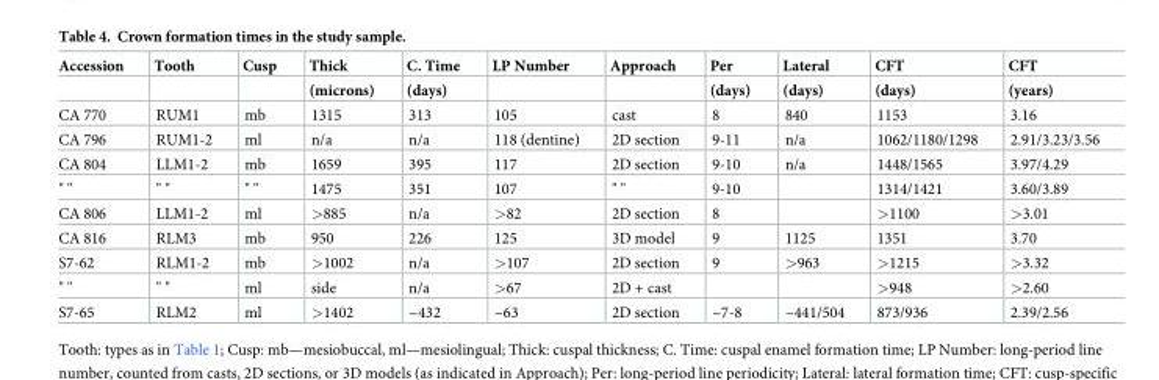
<table><thead><tr><td rowspan="2">Accession</td><td rowspan="2">Tooth</td><td rowspan="2">Cusp</td><td rowspan="2">Thick (microns)</td><td rowspan="2">C. Time (days)</td><td rowspan="2">LP Number</td><td rowspan="2">Approach</td><td rowspan="2">Per (days)</td><td rowspan="2">Lateral (days)</td><td rowspan="2">CFT (days)</td><td rowspan="2">CFT (years)</td></tr><tr></tr></thead><tbody><tr><td>CA 770</td><td>RUM1</td><td>mb</td><td>1315</td><td>313</td><td>105</td><td>cast</td><td>8</td><td>840</td><td>1153</td><td>3.16</td></tr><tr><td>CA 796</td><td>RUM1-2</td><td>ml</td><td>n/a</td><td>n/a</td><td>118 (dentine)</td><td>2D section</td><td>9-11</td><td>n/a</td><td>1062/1180/1298</td><td>2.91/3.23/3.56</td></tr><tr><td>CA 804</td><td>LLM1-2</td><td>mb</td><td>1659</td><td>395</td><td>117</td><td>2D section</td><td>9-10</td><td>n/a</td><td>1448/1565</td><td>3.97/4.29</td></tr><tr><td>&quot; &quot;</td><td>&quot; &quot;</td><td>&quot; &quot;</td><td>1475</td><td>351</td><td>107</td><td>&quot; &quot;</td><td>9-10</td><td></td><td>1314/1421</td><td>3.60/3.89</td></tr><tr><td>CA 806</td><td>LLM1-2</td><td>ml</td><td>&gt;885</td><td>n/a</td><td>&gt;82</td><td>2D section</td><td>8</td><td></td><td>&gt;1100</td><td>&gt;3.01</td></tr><tr><td>CA 816</td><td>RLM3</td><td>mb</td><td>950</td><td>226</td><td>125</td><td>3D model</td><td>9</td><td>1125</td><td>1351</td><td>3.70</td></tr><tr><td>S7-62</td><td>RLM1-2</td><td>mb</td><td>&gt;1002</td><td>n/a</td><td>&gt;107</td><td>2D section</td><td>9</td><td>&gt;963</td><td>&gt;1215</td><td>&gt;3.32</td></tr><tr><td>&quot; &quot;</td><td>&quot; &quot;</td><td>ml</td><td>side</td><td>n/a</td><td>&gt;67</td><td>2D + cast</td><td></td><td></td><td>&gt;948</td><td>&gt;2.60</td></tr><tr><td>S7-65</td><td>RLM2</td><td>ml</td><td>&gt;1402</td><td>~432</td><td>~63</td><td>2D section</td><td>~7-8</td><td>~441/504</td><td>873/936</td><td>2.39/2.56</td></tr></tbody></table>